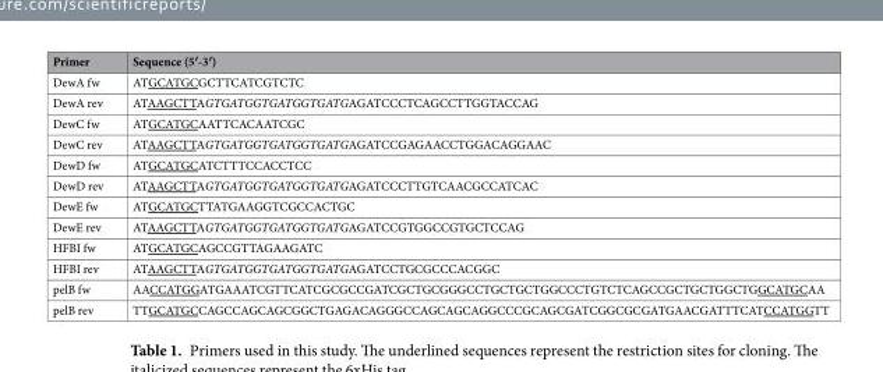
<table><thead><tr><td>Primer</td><td>Sequence (5′-3′)</td></tr></thead><tbody><tr><td>DewA fw</td><td>ATGCATGCGCTTCATCGTCTC</td></tr><tr><td>DewA rev</td><td>ATAAGCTTAGTGATGGTGATGGTGATGAGATCCCTCAGCCTTGGTACCAG</td></tr><tr><td>DewC fw</td><td>ATGCATGCAATTCACAATCGC</td></tr><tr><td>DewC rev</td><td>ATAAGCTTAGTGATGGTGATGGTGATGAGATCCGAGAACCTGGACAGGAAC</td></tr><tr><td>DewD fw</td><td>ATGCATGCATCTTTCCACCTCC</td></tr><tr><td>DewD rev</td><td>ATAAGCTTAGTGATGGTGATGGTGATGAGATCCCTTGTCAACGCCATCAC</td></tr><tr><td>DewE fw</td><td>ATGCATGCTTATGAAGGTCGCCACTGC</td></tr><tr><td>DewE rev</td><td>ATAAGCTTAGTGATGGTGATGGTGATGAGATCCGTGGCCGTGCTCCAG</td></tr><tr><td>HFBI fw</td><td>ATGCATGCAGCCGTTAGAAGATC</td></tr><tr><td>HFBI rev</td><td>ATAAGCTTAGTGATGGTGATGGTGATGAGATCCTGCGCCCACGGC</td></tr><tr><td>pelB fw</td><td>AACCATGGATGAAATCGTTCATCGCGCCGATCGCTGCGGGCCTGCTGCTGGCCCTGTCTCAGCCGCTGCTGGCTGGCATGCAA</td></tr><tr><td>pelB rev</td><td>TTGCATGCCAGCCAGCAGCGGCTGAGACAGGGCCAGCAGCAGGCCCGCAGCGATCGGCGCGATGAACGATTTCATCCATGGTT</td></tr></tbody></table>